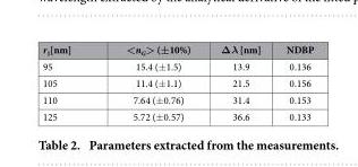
<table><thead><tr><td>r<sub>1</sub>[nm]</td><td>&lt;n<sub>G</sub>&gt; (±10%)</td><td>Δλ [nm]</td><td>NDBP</td></tr></thead><tbody><tr><td>95</td><td>15.4 (± 1.5)</td><td>13.9</td><td>0.136</td></tr><tr><td>105</td><td>11.4 (± 1.1)</td><td>21.5</td><td>0.156</td></tr><tr><td>110</td><td>7.64 (± 0.76)</td><td>31.4</td><td>0.153</td></tr><tr><td>125</td><td>5.72 (± 0.57)</td><td>36.6</td><td>0.133</td></tr></tbody></table>